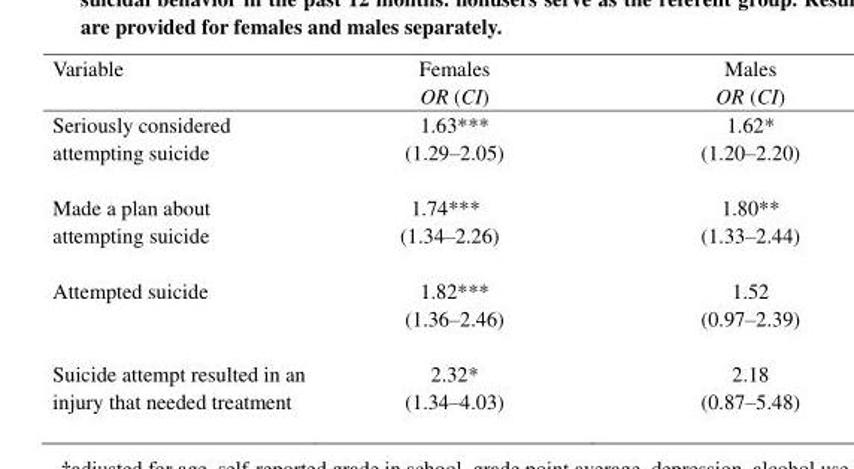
<table><thead><tr><td>Variable</td><td>Females OR (CI)</td><td>Males OR (CI)</td></tr></thead><tbody><tr><td>Seriously considered attempting suicide</td><td>1.63*** (1.29–2.05)</td><td>1.62* (1.20–2.20)</td></tr><tr><td>Made a plan about attempting suicide</td><td>1.74*** (1.34–2.26)</td><td>1.80** (1.33–2.44)</td></tr><tr><td>Attempted suicide</td><td>1.82*** (1.36–2.46)</td><td>1.52 (0.97–2.39)</td></tr><tr><td>Suicide attempt resulted in an injury that needed treatment</td><td>2.32* (1.34–4.03)</td><td>2.18 (0.87–5.48)</td></tr></tbody></table>